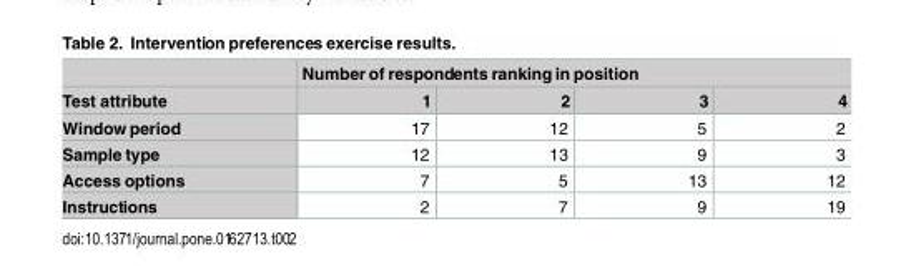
<table><thead><tr><td rowspan="2">Test attribute</td><td colspan="4">Number of respondents ranking in position</td></tr><tr><td>1</td><td>2</td><td>3</td><td>4</td></tr></thead><tbody><tr><td>Window period</td><td>17</td><td>12</td><td>5</td><td>2</td></tr><tr><td>Sample type</td><td>12</td><td>13</td><td>9</td><td>3</td></tr><tr><td>Access options</td><td>7</td><td>5</td><td>13</td><td>12</td></tr><tr><td>Instructions</td><td>2</td><td>7</td><td>9</td><td>19</td></tr></tbody></table>